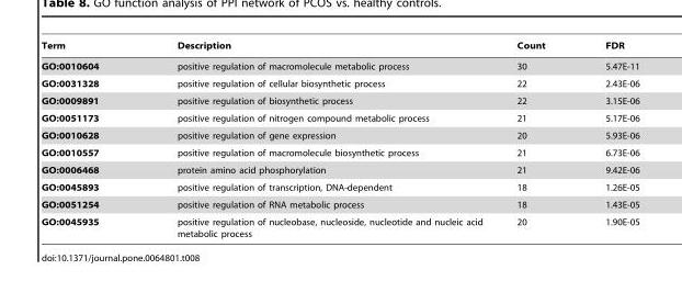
<table><thead><tr><td>Term</td><td>Description</td><td>Count</td><td>FDR</td></tr></thead><tbody><tr><td>GO:0010604</td><td>positive regulation of macromolecule metabolic process</td><td>30</td><td>5.47E-11</td></tr><tr><td>GO:0031328</td><td>positive regulation of cellular biosynthetic process</td><td>22</td><td>2.43E-06</td></tr><tr><td>GO:0009891</td><td>positive regulation of biosynthetic process</td><td>22</td><td>3.15E-06</td></tr><tr><td>GO:0051173</td><td>positive regulation of nitrogen compound metabolic process</td><td>21</td><td>5.17E-06</td></tr><tr><td>GO:0010628</td><td>positive regulation of gene expression</td><td>20</td><td>5.93E-06</td></tr><tr><td>GO:0010557</td><td>positive regulation of macromolecule biosynthetic process</td><td>21</td><td>6.73E-06</td></tr><tr><td>GO:0006468</td><td>protein amino acid phosphorylation</td><td>21</td><td>9.42E-06</td></tr><tr><td>GO:0045893</td><td>positive regulation of transcription, DNA-dependent</td><td>18</td><td>1.26E-05</td></tr><tr><td>GO:0051254</td><td>positive regulation of RNA metabolic process</td><td>18</td><td>1.43E-05</td></tr><tr><td>GO:0045935</td><td>positive regulation of nucleobase, nucleoside, nucleotide and nucleic acid metabolic process</td><td>20</td><td>1.90E-05</td></tr></tbody></table>